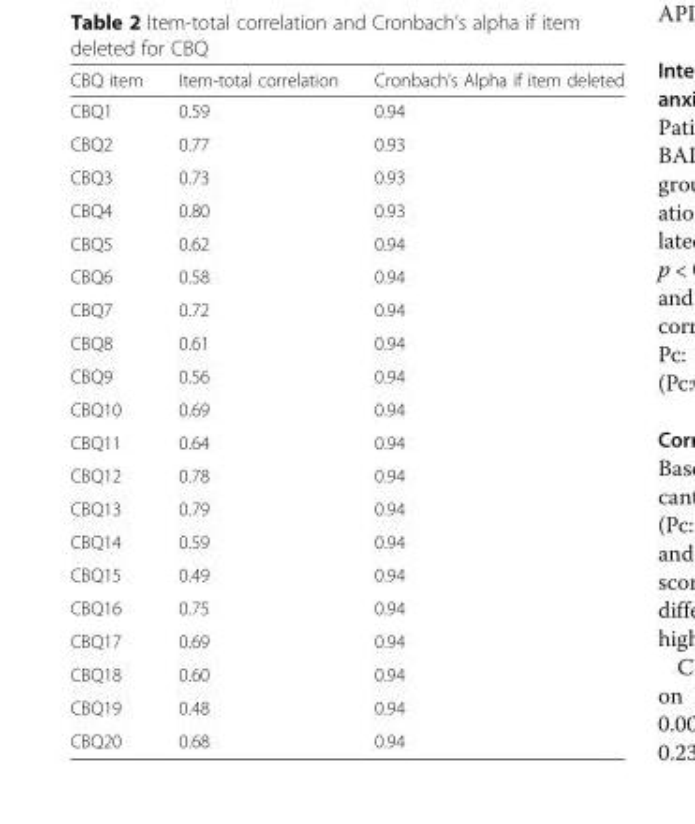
<table><thead><tr><td>CBQ item</td><td>Item-total correlation</td><td>Cronbach’s Alpha if item deleted</td></tr></thead><tbody><tr><td>CBQ1</td><td>0.59</td><td>0.94</td></tr><tr><td>CBQ2</td><td>0.77</td><td>0.93</td></tr><tr><td>CBQ3</td><td>0.73</td><td>0.93</td></tr><tr><td>CBQ4</td><td>0.80</td><td>0.93</td></tr><tr><td>CBQ5</td><td>0.62</td><td>0.94</td></tr><tr><td>CBQ6</td><td>0.58</td><td>0.94</td></tr><tr><td>CBQ7</td><td>0.72</td><td>0.94</td></tr><tr><td>CBQ8</td><td>0.61</td><td>0.94</td></tr><tr><td>CBQ9</td><td>0.56</td><td>0.94</td></tr><tr><td>CBQ10</td><td>0.69</td><td>0.94</td></tr><tr><td>CBQ11</td><td>0.64</td><td>0.94</td></tr><tr><td>CBQ12</td><td>0.78</td><td>0.94</td></tr><tr><td>CBQ13</td><td>0.79</td><td>0.94</td></tr><tr><td>CBQ14</td><td>0.59</td><td>0.94</td></tr><tr><td>CBQ15</td><td>0.49</td><td>0.94</td></tr><tr><td>CBQ16</td><td>0.75</td><td>0.94</td></tr><tr><td>CBQ17</td><td>0.69</td><td>0.94</td></tr><tr><td>CBQ18</td><td>0.60</td><td>0.94</td></tr><tr><td>CBQ19</td><td>0.48</td><td>0.94</td></tr><tr><td>CBQ20</td><td>0.68</td><td>0.94</td></tr></tbody></table>